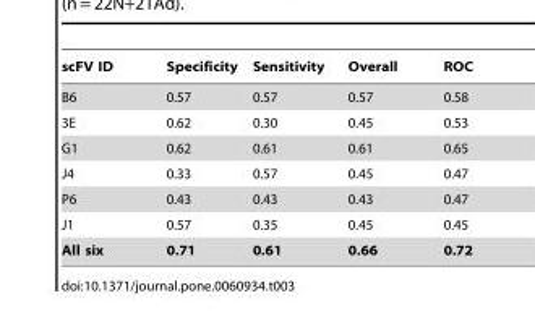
<table><thead><tr><td>scFV ID</td><td>Specificity</td><td>Sensitivity</td><td>Overall</td><td>ROC</td></tr></thead><tbody><tr><td>B6</td><td>0.57</td><td>0.57</td><td>0.57</td><td>0.58</td></tr><tr><td>3E</td><td>0.62</td><td>0.30</td><td>0.45</td><td>0.53</td></tr><tr><td>G1</td><td>0.62</td><td>0.61</td><td>0.61</td><td>0.65</td></tr><tr><td>J4</td><td>0.33</td><td>0.57</td><td>0.45</td><td>0.47</td></tr><tr><td>P6</td><td>0.43</td><td>0.43</td><td>0.43</td><td>0.47</td></tr><tr><td>J1</td><td>0.57</td><td>0.35</td><td>0.45</td><td>0.45</td></tr><tr><td>All six</td><td>0.71</td><td>0.61</td><td>0.66</td><td>0.72</td></tr></tbody></table>